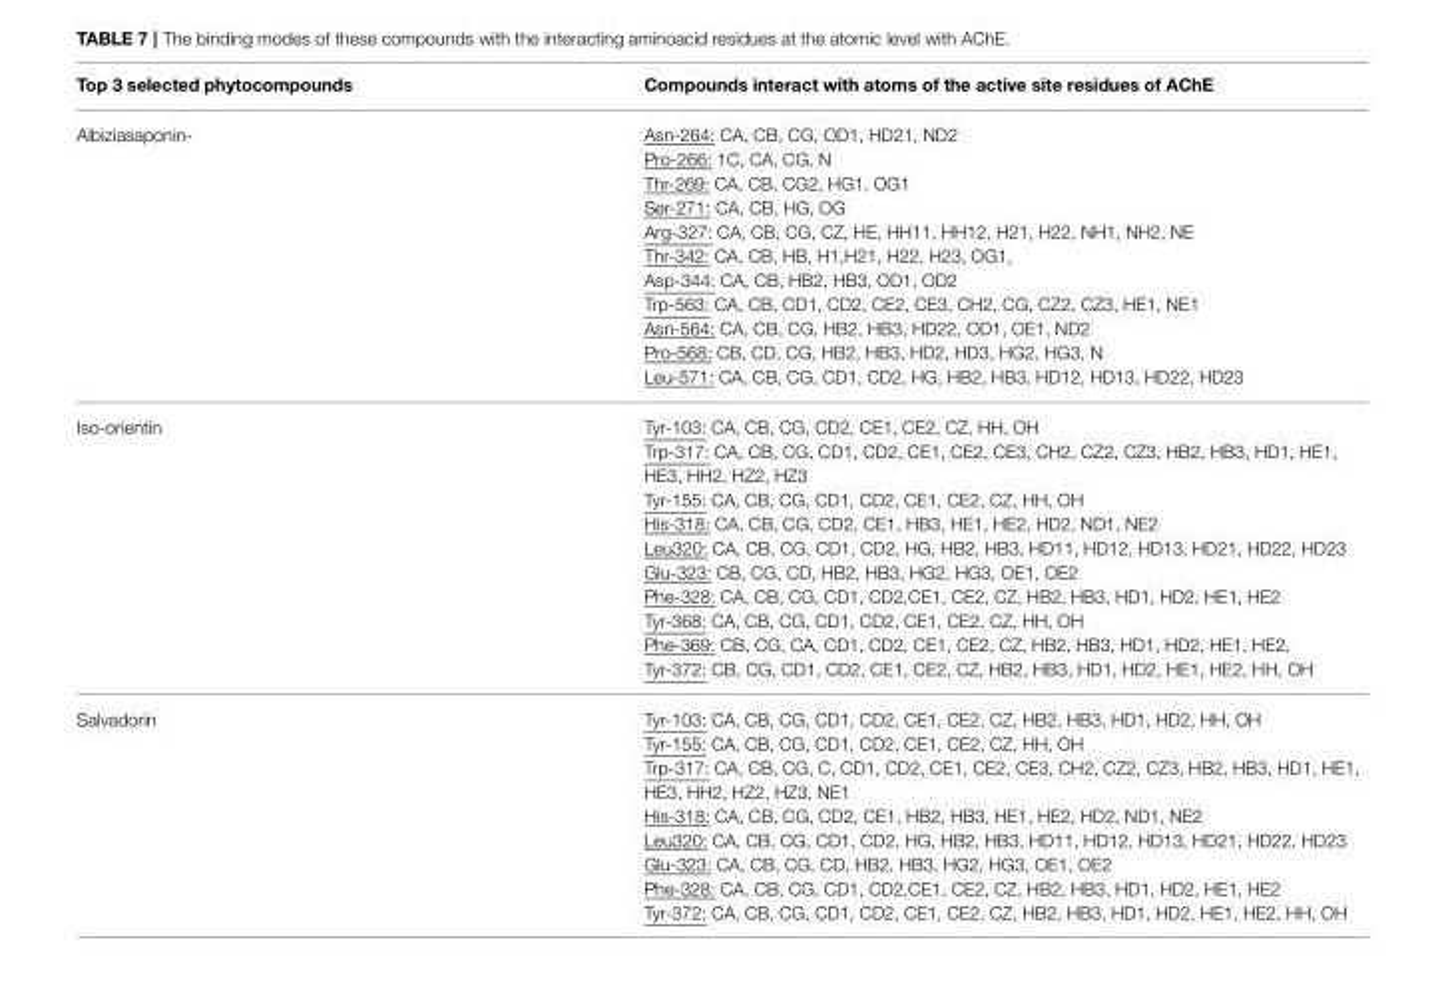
<table><thead><tr><td>Top 3 selected phytocompounds</td><td>Compounds interact with atoms of the active site residues of AChE</td></tr></thead><tbody><tr><td>Albiziasaponin-</td><td>Asn-264: CA, CB, CG, OD1, HD21, ND2 Pro-266: 1C, CA, CG, N Thr-269: CA, CB, CG2, HG1, OG1 Ser-271: CA, CB, HG, OG Arg-327: CA, CB, CG, CZ, HE, HH11, HH12, H21, H22, NH1, NH2, NE Thr-342: CA, CB, HB, H1,H21, H22, H23, OG1, Asp-344: CA, CB, HB2, HB3, OD1, OD2 Trp-563: CA, CB, CD1, CD2, CE2, CE3, CH2, CG, CZ2, CZ3, HE1, NE1 Asn-564: CA, CB, CG, HB2, HB3, HD22, OD1, OE1, ND2 Pro-568: CB, CD, CG, HB2, HB3, HD2, HD3, HG2, HG3, N Leu-571: CA, CB, CG, CD1, CD2, HG, HB2, HB3, HD12, HD13, HD22, HD23</td></tr><tr><td>Iso-orientin</td><td>Tyr-103: CA, CB, CG, CD2, CE1, CE2, CZ, HH, OH Trp-317: CA, CB, CG, CD1, CD2, CE1, CE2, CE3, CH2, CZ2, CZ3, HB2, HB3, HD1, HE1, HE3, HH2, HZ2, HZ3 Tyr-155: CA, CB, CG, CD1, CD2, CE1, CE2, CZ, HH, OH His-318: CA, CB, CG, CD2, CE1, HB3, HE1, HE2, HD2, ND1, NE2 Leu320: CA, CB, CG, CD1, CD2, HG, HB2, HB3, HD11, HD12, HD13, HD21, HD22, HD23 Glu-323: CB, CG, CD, HB2, HB3, HG2, HG3, OE1, OE2 Phe-328: CA, CB, CG, CD1, CD2,CE1, CE2, CZ, HB2, HB3, HD1, HD2, HE1, HE2 Tyr-368: CA, CB, CG, CD1, CD2, CE1, CE2, CZ, HH, OH Phe-369: CB, CG, CA, CD1, CD2, CE1, CE2, CZ, HB2, HB3, HD1, HD2, HE1, HE2, Tyr-372: CB, CG, CD1, CD2, CE1, CE2, CZ, HB2, HB3, HD1, HD2, HE1, HE2, HH, OH</td></tr><tr><td>Salvadorin</td><td>Tyr-103: CA, CB, CG, CD1, CD2, CE1, CE2, CZ, HB2, HB3, HD1, HD2, HH, OH Tyr-155: CA, CB, CG, CD1, CD2, CE1, CE2, CZ, HH, OH Trp-317: CA, CB, CG, C, CD1, CD2, CE1, CE2, CE3, CH2, CZ2, CZ3, HB2, HB3, HD1, HE1, HE3, HH2, HZ2, HZ3, NE1 His-318: CA, CB, CG, CD2, CE1, HB2, HB3, HE1, HE2, HD2, ND1, NE2 Leu320: CA, CB, CG, CD1, CD2, HG, HB2, HB3, HD11, HD12, HD13, HD21, HD22, HD23 Glu-323: CA, CB, CG, CD, HB2, HB3, HG2, HG3, OE1, OE2 Phe-328: CA, CB, CG, CD1, CD2,CE1, CE2, CZ, HB2, HB3, HD1, HD2, HE1, HE2 Tyr-372: CA, CB, CG, CD1, CD2, CE1, CE2, CZ, HB2, HB3, HD1, HD2, HE1, HE2, HH, OH</td></tr></tbody></table>